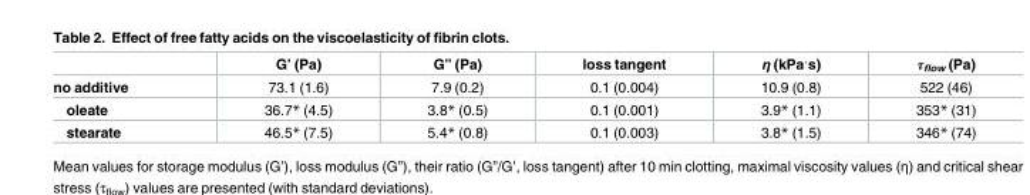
<table><thead><tr><td></td><td>G’ (Pa)</td><td>G” (Pa)</td><td>loss tangent</td><td>η (kPaˑs)</td><td>τ<sub>flow</sub> (Pa)</td></tr></thead><tbody><tr><td>no additive</td><td>73.1 (1.6)</td><td>7.9 (0.2)</td><td>0.1 (0.004)</td><td>10.9 (0.8)</td><td>522 (46)</td></tr><tr><td>oleate</td><td>36.7* (4.5)</td><td>3.8* (0.5)</td><td>0.1 (0.001)</td><td>3.9* (1.1)</td><td>353* (31)</td></tr><tr><td>stearate</td><td>46.5* (7.5)</td><td>5.4* (0.8)</td><td>0.1 (0.003)</td><td>3.8* (1.5)</td><td>346* (74)</td></tr></tbody></table>